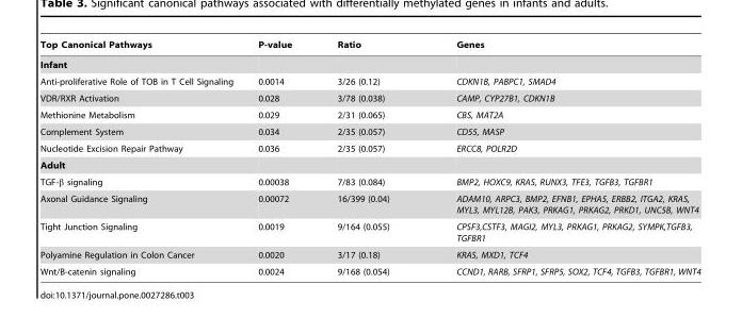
<table><thead><tr><td>Top Canonical Pathways</td><td>P-value</td><td>Ratio</td><td>Genes</td></tr></thead><tbody><tr><td colspan="4">Infant</td></tr><tr><td>Anti-proliferative Role of TOB in T Cell Signaling</td><td>0.0014</td><td>3/26 (0.12)</td><td>CDKN1B, PABPC1, SMAD4</td></tr><tr><td>VDR/RXR Activation</td><td>0.028</td><td>3/78 (0.038)</td><td>CAMP, CYP27B1, CDKN1B</td></tr><tr><td>Methionine Metabolism</td><td>0.029</td><td>2/31 (0.065)</td><td>CBS, MAT2A</td></tr><tr><td>Complement System</td><td>0.034</td><td>2/35 (0.057)</td><td>CD55, MASP</td></tr><tr><td>Nucleotide Excision Repair Pathway</td><td>0.036</td><td>2/35 (0.057)</td><td>ERCC8, POLR2D</td></tr><tr><td colspan="4">Adult</td></tr><tr><td>TGF-β signaling</td><td>0.00038</td><td>7/83 (0.084)</td><td>BMP2, HOXC9, KRAS, RUNX3, TFE3, TGFB3, TGFBR1</td></tr><tr><td>Axonal Guidance Signaling</td><td>0.00072</td><td>16/399 (0.04)</td><td>ADAM10, ARPC3, BMP2, EFNB1, EPHA5, ERBB2, ITGA2, KRAS, MYL3, MYL12B, PAK3, PRKAG1, PRKAG2, PRKD1, UNC5B, WNT4</td></tr><tr><td>Tight Junction Signaling</td><td>0.0019</td><td>9/164 (0.055)</td><td>CPSF3,CSTF3, MAGI2, MYL3, PRKAG1, PRKAG2, SYMPK,TGFB3, TGFBR1</td></tr><tr><td>Polyamine Regulation in Colon Cancer</td><td>0.0020</td><td>3/17 (0.18)</td><td>KRAS, MXD1, TCF4</td></tr><tr><td>Wnt/B-catenin signaling</td><td>0.0024</td><td>9/168 (0.054)</td><td>CCND1, RARB, SFRP1, SFRP5, SOX2, TCF4, TGFB3, TGFBR1, WNT4</td></tr></tbody></table>